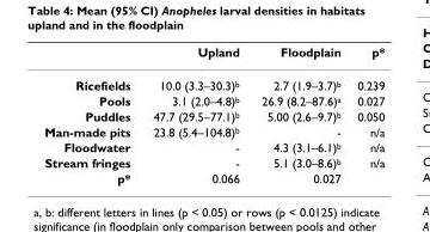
<table><thead><tr><td></td><td>Upland</td><td>Floodplain</td><td>p*</td></tr></thead><tbody><tr><td>Ricefields</td><td>10.0 (3.3–30.3)<sup>b</sup></td><td>2.7 (1.9–3.7)<sup>b</sup></td><td>0.239</td></tr><tr><td>Pools</td><td>3.1 (2.0–4.8)<sup>b</sup></td><td>26.9 (8.2–87.6)<sup>a</sup></td><td>0.027</td></tr><tr><td>Puddles</td><td>47.7 (29.5–77.1)<sup>b</sup></td><td>5.00 (2.6–9.7)<sup>b</sup></td><td>0.050</td></tr><tr><td>Man-made pits</td><td>23.8 (5.4–104.8)<sup>b</sup></td><td>-</td><td>n/a</td></tr><tr><td>Floodwater</td><td>-</td><td>4.3 (3.1–6.1)<sup>b</sup></td><td>n/a</td></tr><tr><td>Stream fringes</td><td>-</td><td>5.1 (3.0–8.6)<sup>b</sup></td><td>n/a</td></tr><tr><td>p*</td><td>0.066</td><td>0.027</td><td></td></tr></tbody></table>